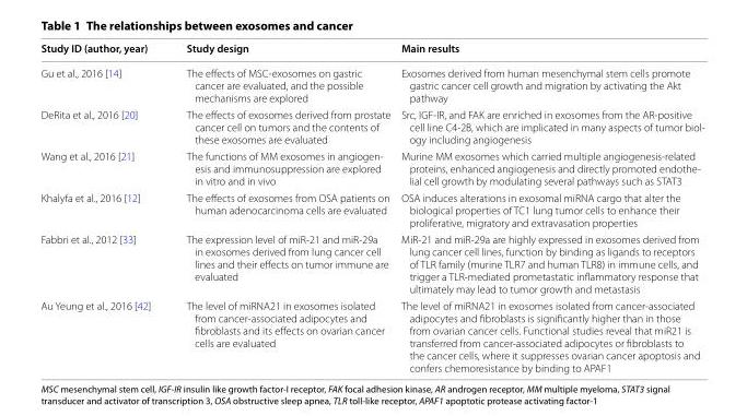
<table><thead><tr><td>Study ID (author, year)</td><td>Study design</td><td>Main results</td></tr></thead><tbody><tr><td>Gu et al., 2016 [14]</td><td>The effects of MSC‑exosomes on gastric cancer are evaluated, and the possible mechanisms are explored</td><td>Exosomes derived from human mesenchymal stem cells promote gastric cancer cell growth and migration by activating the Akt pathway</td></tr><tr><td>DeRita et al., 2016 [20]</td><td>The effects of exosomes derived from prostate cancer cell on tumors and the contents of these exosomes are evaluated</td><td>Src, IGF‑IR, and FAK are enriched in exosomes from the AR‑positive cell line C4‑2B, which are implicated in many aspects of tumor biol‑ ogy including angiogenesis</td></tr><tr><td>Wang et al., 2016 [21]</td><td>The functions of MM exosomes in angiogen‑ esis and immunosuppression are explored in vitro and in vivo</td><td>Murine MM exosomes which carried multiple angiogenesis‑related proteins, enhanced angiogenesis and directly promoted endothe‑ lial cell growth by modulating several pathways such as STAT3</td></tr><tr><td>Khalyfa et al., 2016 [12]</td><td>The effects of exosomes from OSA patients on human adenocarcinoma cells are evaluated</td><td>OSA induces alterations in exosomal miRNA cargo that alter the biological properties of TC1 lung tumor cells to enhance their proliferative, migratory and extravasation properties</td></tr><tr><td>Fabbri et al., 2012 [33]</td><td>The expression level of miR‑21 and miR‑29a in exosomes derived from lung cancer cell lines and their effects on tumor immune are evaluated</td><td>MiR‑21 and miR‑29a are highly expressed in exosomes derived from lung cancer cell lines, function by binding as ligands to receptors of TLR family (murine TLR7 and human TLR8) in immune cells, and trigger a TLR‑mediated prometastatic inflammatory response that ultimately may lead to tumor growth and metastasis</td></tr><tr><td>Au Yeung et al., 2016 [42]</td><td>The level of miRNA21 in exosomes isolated from cancer‑associated adipocytes and fibroblasts and its effects on ovarian cancer cells are evaluated</td><td>The level of miRNA21 in exosomes isolated from cancer‑associated adipocytes and fibroblasts is significantly higher than in those from ovarian cancer cells. Functional studies reveal that miR21 is transferred from cancer‑associated adipocytes or fibroblasts to the cancer cells, where it suppresses ovarian cancer apoptosis and confers chemoresistance by binding to APAF1</td></tr></tbody></table>